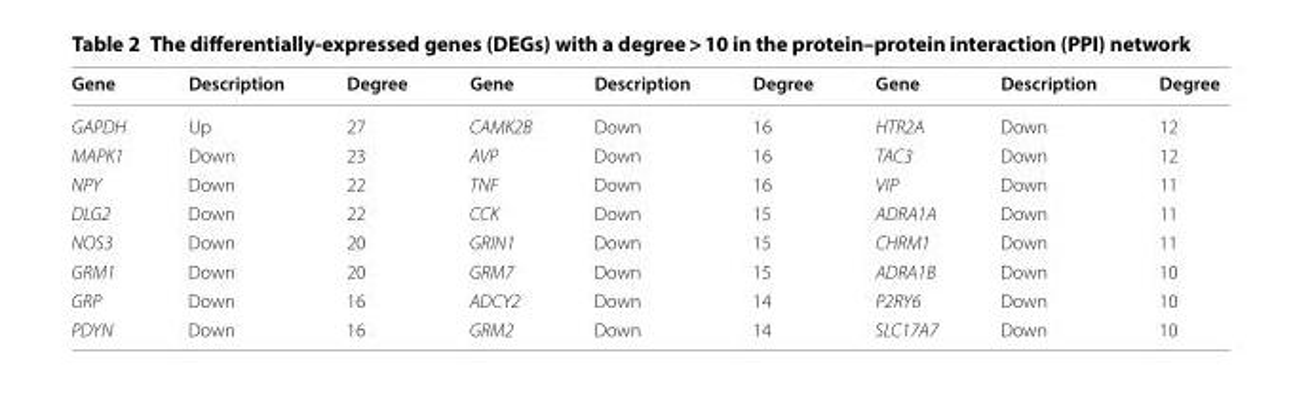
<table><thead><tr><td>Gene</td><td>Description</td><td>Degree</td><td>Gene</td><td>Description</td><td>Degree</td><td>Gene</td><td>Description</td><td>Degree</td></tr></thead><tbody><tr><td>GAPDH</td><td>Up</td><td>27</td><td>CAMK2B</td><td>Down</td><td>16</td><td>HTR2A</td><td>Down</td><td>12</td></tr><tr><td>MAPK1</td><td>Down</td><td>23</td><td>AVP</td><td>Down</td><td>16</td><td>TAC3</td><td>Down</td><td>12</td></tr><tr><td>NPY</td><td>Down</td><td>22</td><td>TNF</td><td>Down</td><td>16</td><td>VIP</td><td>Down</td><td>11</td></tr><tr><td>DLG2</td><td>Down</td><td>22</td><td>CCK</td><td>Down</td><td>15</td><td>ADRA1A</td><td>Down</td><td>11</td></tr><tr><td>NOS3</td><td>Down</td><td>20</td><td>GRIN1</td><td>Down</td><td>15</td><td>CHRM1</td><td>Down</td><td>11</td></tr><tr><td>GRM1</td><td>Down</td><td>20</td><td>GRM7</td><td>Down</td><td>15</td><td>ADRA1B</td><td>Down</td><td>10</td></tr><tr><td>GRP</td><td>Down</td><td>16</td><td>ADCY2</td><td>Down</td><td>14</td><td>P2RY6</td><td>Down</td><td>10</td></tr><tr><td>PDYN</td><td>Down</td><td>16</td><td>GRM2</td><td>Down</td><td>14</td><td>SLC17A7</td><td>Down</td><td>10</td></tr></tbody></table>